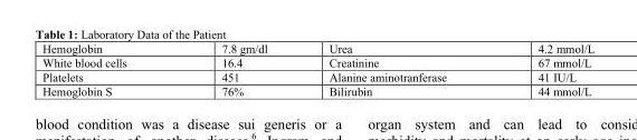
<table><tbody><tr><td>Hemoglobin</td><td>7.8 gm/dl</td><td>Urea</td><td>4.2 mmol/L</td></tr><tr><td>White blood cells</td><td>16.4</td><td>Creatinine</td><td>67 mmol/L</td></tr><tr><td>Platelets</td><td>451</td><td>Alanine aminotranferase</td><td>41 IU/L</td></tr><tr><td>Hemoglobin S</td><td>76%</td><td>Bilirubin</td><td>44 mmol/L</td></tr></tbody></table>